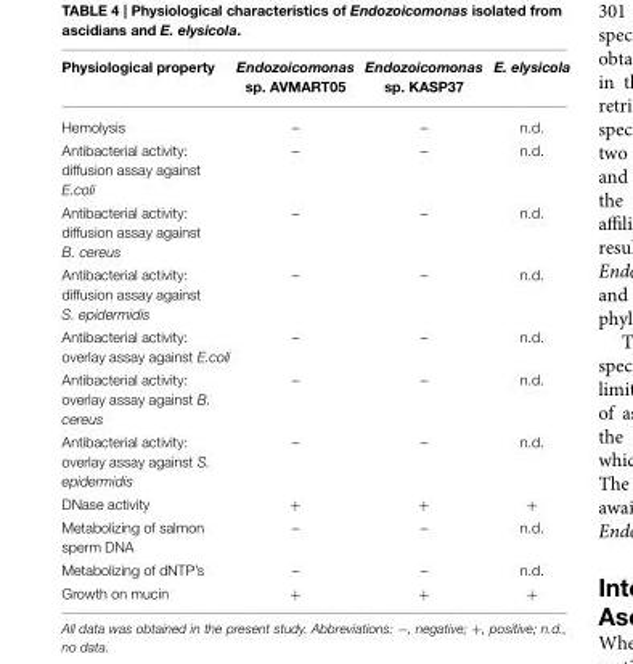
<table><thead><tr><td>Physiological property</td><td>Endozoicomonas sp. AVMART05</td><td>Endozoicomonas sp. KASP37</td><td>E. elysicola</td></tr></thead><tbody><tr><td>Hemolysis</td><td>–</td><td>–</td><td>n.d.</td></tr><tr><td>Antibacterial activity: diffusion assay against E.coli</td><td>–</td><td>–</td><td>n.d.</td></tr><tr><td>Antibacterial activity: diffusion assay against B. cereus</td><td>–</td><td>–</td><td>n.d.</td></tr><tr><td>Antibacterial activity: diffusion assay against S. epidermidis</td><td>–</td><td>–</td><td>n.d.</td></tr><tr><td>Antibacterial activity: overlay assay against E.coli</td><td>–</td><td>–</td><td>n.d.</td></tr><tr><td>Antibacterial activity: overlay assay against B. cereus</td><td>–</td><td>–</td><td>n.d.</td></tr><tr><td>Antibacterial activity: overlay assay against S. epidermidis</td><td>–</td><td>–</td><td>n.d.</td></tr><tr><td>DNase activity</td><td>+</td><td>+</td><td>+</td></tr><tr><td>Metabolizing of salmon sperm DNA</td><td>–</td><td>–</td><td>n.d.</td></tr><tr><td>Metabolizing of dNTP’s</td><td>–</td><td>–</td><td>n.d.</td></tr><tr><td>Growth on mucin</td><td>+</td><td>+</td><td>+</td></tr></tbody></table>